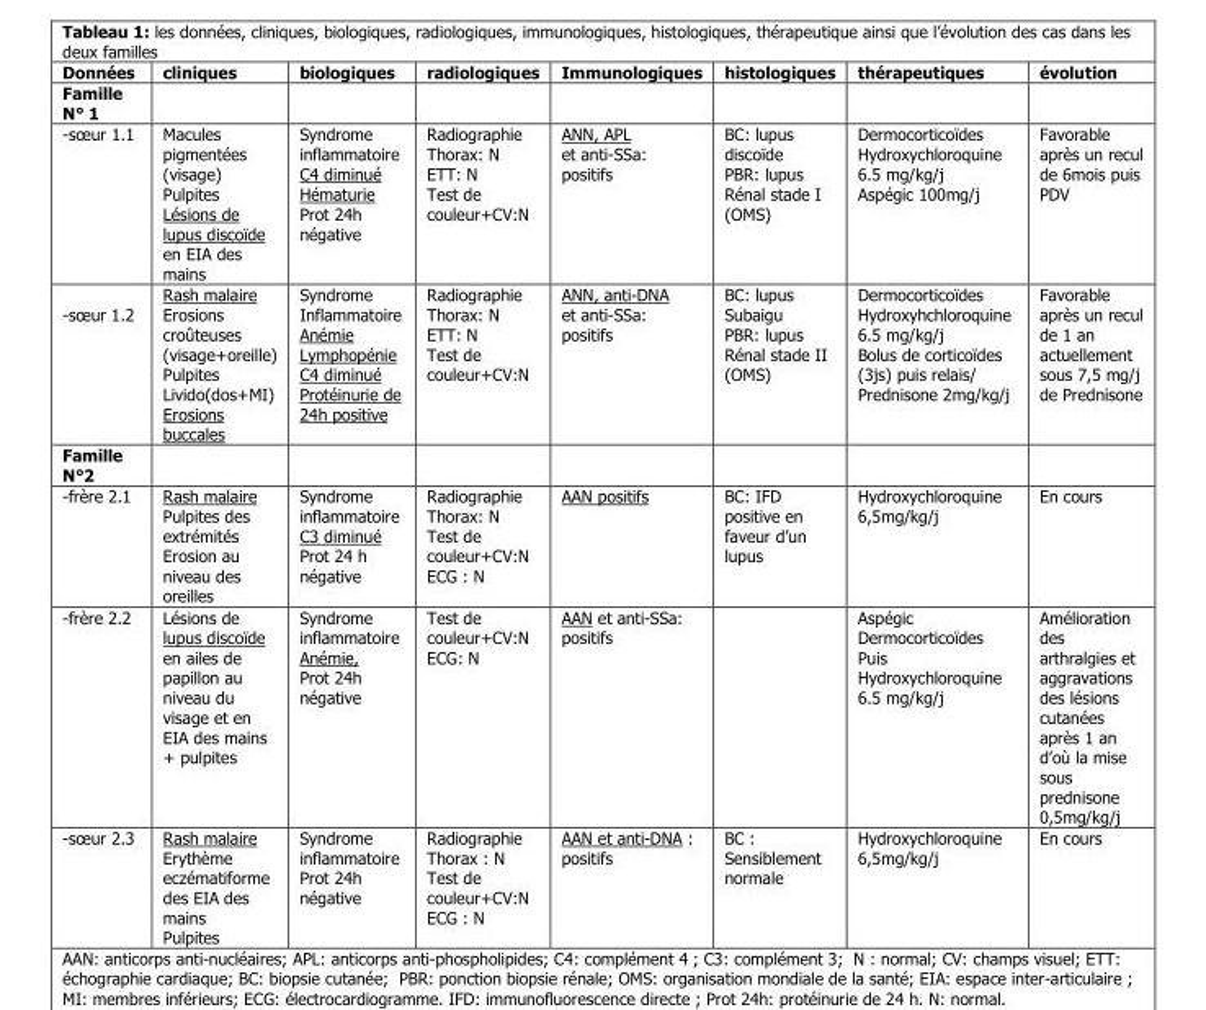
<table><thead><tr><td>Données</td><td>cliniques</td><td>biologiques</td><td>radiologiques</td><td>Immunologiques</td><td>histologiques</td><td>thérapeutiques</td><td>évolution</td></tr></thead><tbody><tr><td colspan="8">Famille N° 1</td></tr><tr><td>-sœur 1.1</td><td>Macules pigmentées (visage) Pulpites Lésions de lupus discoïde en EIA des mains</td><td>Syndrome inflammatoire C4 diminué Hématurie Prot 24h négative</td><td>Radiographie Thorax: N ETT: N Test de couleur+CV:N</td><td>ANN, APL et anti-SSa: positifs</td><td>BC: lupus discoïde PBR: lupus Rénal stade I (OMS)</td><td>Dermocorticoïdes Hydroxychloroquine 6.5 mg/kg/j Aspégic 100mg/j</td><td>Favorable après un recul de 6mois puis PDV</td></tr><tr><td>-sœur 1.2</td><td>Rash malaire Erosions croûteuses (visage+oreille) Pulpites Livido(dos+MI) Erosions buccales</td><td>Syndrome Inflammatoire Anémie Lymphopénie C4 diminué Protéinurie de 24h positive</td><td>Radiographie Thorax: N ETT: N Test de couleur+CV:N</td><td>ANN, anti-DNA et anti-SSa: positifs</td><td>BC: lupus Subaigu PBR: lupus Rénal stade II (OMS)</td><td>Dermocorticoïdes Hydroxyhchloroquine 6.5 mg/kg/j Bolus de corticoïdes (3js) puis relais/ Prednisone 2mg/kg/j</td><td>Favorable après un recul de 1 an actuellement sous 7,5 mg/j de Prednisone</td></tr><tr><td colspan="8">Famille N°2</td></tr><tr><td>-frère 2.1</td><td>Rash malaire Pulpites des extrémités Erosion au niveau des oreilles</td><td>Syndrome inflammatoire C3 diminué Prot 24 h négative</td><td>Radiographie Thorax: N Test de couleur+CV:N ECG : N</td><td>AAN positifs</td><td>BC: IFD positive en faveur d’un lupus</td><td>Hydroxychloroquine 6,5mg/kg/j</td><td>En cours</td></tr><tr><td>-frère 2.2</td><td>Lésions de lupus discoïde en ailes de papillon au niveau du visage et en EIA des mains + pulpites</td><td>Syndrome inflammatoire Anémie, Prot 24h négative</td><td>Test de couleur+CV:N ECG: N</td><td>AAN et anti-SSa: positifs</td><td></td><td>Aspégic Dermocorticoïdes Puis Hydroxychloroquine 6.5 mg/kg/j</td><td>Amélioration des arthralgies et aggravations des lésions cutanées après 1 an d’où la mise sous prednisone 0,5mg/kg/j</td></tr><tr><td>-sœur 2.3</td><td>Rash malaire Erythème eczématiforme des EIA des mains Pulpites</td><td>Syndrome inflammatoire Prot 24h négative</td><td>Radiographie Thorax : N Test de couleur+CV:N ECG : N</td><td>AAN et anti-DNA : positifs</td><td>BC : Sensiblement normale</td><td>Hydroxychloroquine 6,5mg/kg/j</td><td>En cours</td></tr></tbody></table>